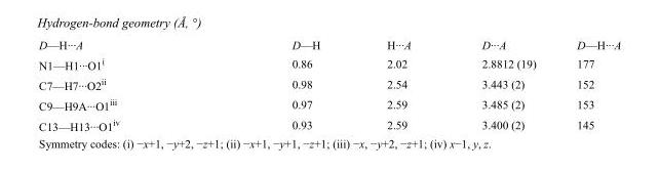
<table><tbody><tr><td>D—H···A</td><td>D—H</td><td>H···A</td><td>D···A</td><td>D—H···A</td></tr><tr><td>N1—H1···O1<sup>i</sup></td><td>0.86</td><td>2.02</td><td>2.8812 (19)</td><td>177</td></tr><tr><td>C7—H7···O2<sup>ii</sup></td><td>0.98</td><td>2.54</td><td>3.443 (2)</td><td>152</td></tr><tr><td>C9—H9A···O1<sup>iii</sup></td><td>0.97</td><td>2.59</td><td>3.485 (2)</td><td>153</td></tr><tr><td>C13—H13···O1<sup>iv</sup></td><td>0.93</td><td>2.59</td><td>3.400 (2)</td><td>145</td></tr></tbody></table>